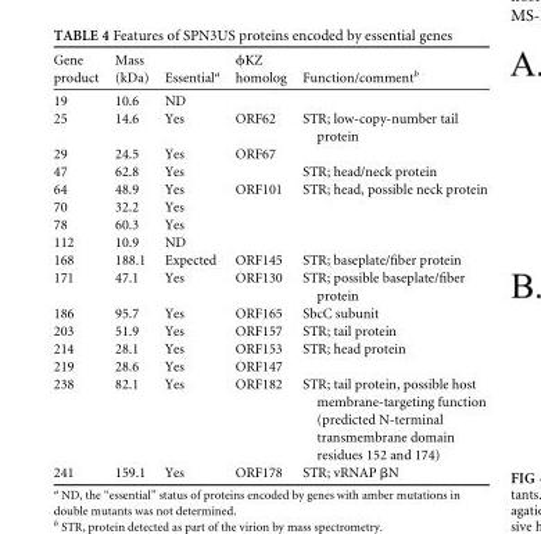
<table><thead><tr><td>Gene product</td><td>Mass (kDa)</td><td>Essential<sup>a</sup></td><td>ϕKZ homolog</td><td>Function/comment<sup>b</sup></td></tr></thead><tbody><tr><td>19</td><td>10.6</td><td>ND</td><td></td><td></td></tr><tr><td>25</td><td>14.6</td><td>Yes</td><td>ORF62</td><td>STR; low-copy-number tail protein</td></tr><tr><td>29</td><td>24.5</td><td>Yes</td><td>ORF67</td><td></td></tr><tr><td>47</td><td>62.8</td><td>Yes</td><td></td><td>STR; head/neck protein</td></tr><tr><td>64</td><td>48.9</td><td>Yes</td><td>ORF101</td><td>STR; head, possible neck protein</td></tr><tr><td>70</td><td>32.2</td><td>Yes</td><td></td><td></td></tr><tr><td>78</td><td>60.3</td><td>Yes</td><td></td><td></td></tr><tr><td>112</td><td>10.9</td><td>ND</td><td></td><td></td></tr><tr><td>168</td><td>188.1</td><td>Expected</td><td>ORF145</td><td>STR; baseplate/fiber protein</td></tr><tr><td>171</td><td>47.1</td><td>Yes</td><td>ORF130</td><td>STR; possible baseplate/fiber protein</td></tr><tr><td>186</td><td>95.7</td><td>Yes</td><td>ORF165</td><td>SbcC subunit</td></tr><tr><td>203</td><td>51.9</td><td>Yes</td><td>ORF157</td><td>STR; tail protein</td></tr><tr><td>214</td><td>28.1</td><td>Yes</td><td>ORF153</td><td>STR; head protein</td></tr><tr><td>219</td><td>28.6</td><td>Yes</td><td>ORF147</td><td></td></tr><tr><td>238</td><td>82.1</td><td>Yes</td><td>ORF182</td><td>STR; tail protein, possible host membrane-targeting function (predicted N-terminal transmembrane domain residues 152 and 174)</td></tr><tr><td>241</td><td>159.1</td><td>Yes</td><td>ORF178</td><td>STR; vRNAP βN</td></tr></tbody></table>